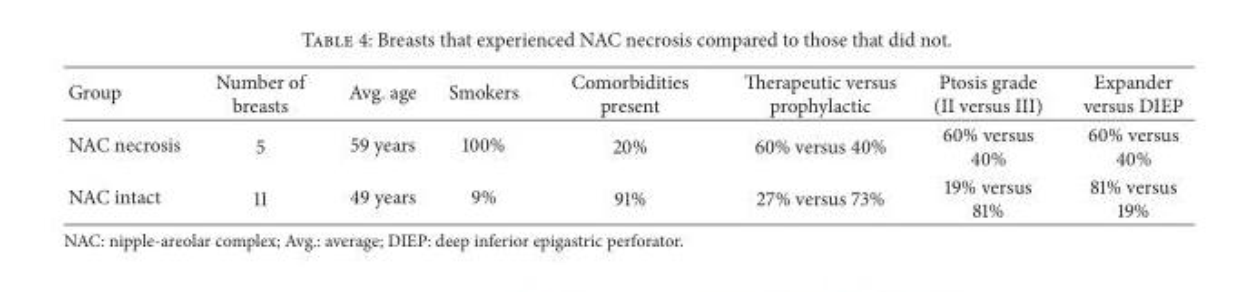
<table><thead><tr><td>Group</td><td>Number of breasts</td><td>Avg. age</td><td>Smokers</td><td>Comorbidities present</td><td>Therapeutic versus prophylactic</td><td>Ptosis grade (II versus III)</td><td>Expander versus DIEP</td></tr></thead><tbody><tr><td>NAC necrosis</td><td>5</td><td>59 years</td><td>100%</td><td>20%</td><td>60% versus 40%</td><td>60% versus 40%</td><td>60% versus 40%</td></tr><tr><td>NAC intact</td><td>11</td><td>49 years</td><td>9%</td><td>91%</td><td>27% versus 73%</td><td>19% versus 81%</td><td>81% versus 19%</td></tr></tbody></table>